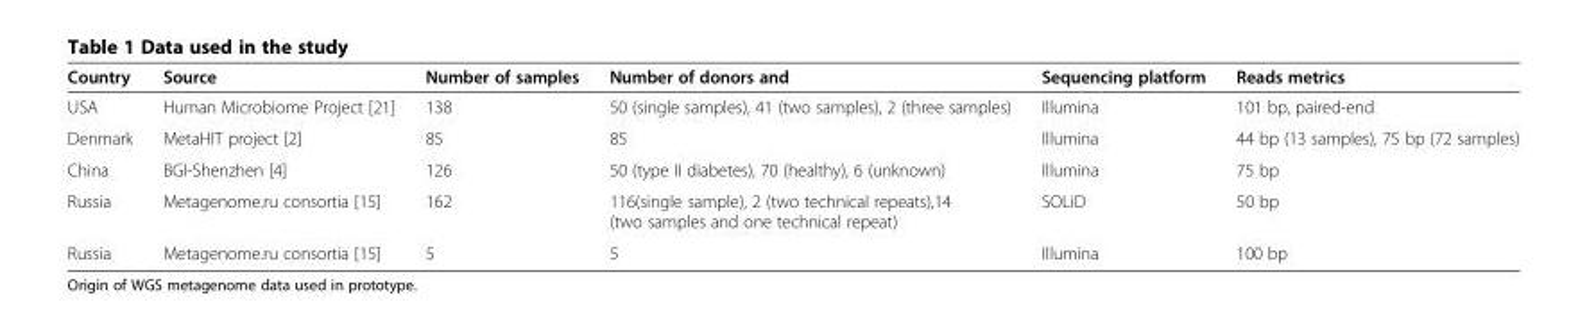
<table><thead><tr><td>Country</td><td>Source</td><td>Number of samples</td><td>Number of donors and</td><td>Sequencing platform</td><td>Reads metrics</td></tr></thead><tbody><tr><td>USA</td><td>Human Microbiome Project [21]</td><td>138</td><td>50 (single samples), 41 (two samples), 2 (three samples)</td><td>Illumina</td><td>101 bp, paired-end</td></tr><tr><td>Denmark</td><td>MetaHIT project [2]</td><td>85</td><td>85</td><td>Illumina</td><td>44 bp (13 samples), 75 bp (72 samples)</td></tr><tr><td>China</td><td>BGI-Shenzhen [4]</td><td>126</td><td>50 (type II diabetes), 70 (healthy), 6 (unknown)</td><td>Illumina</td><td>75 bp</td></tr><tr><td>Russia</td><td>Metagenome.ru consortia [15]</td><td>162</td><td>116(single sample), 2 (two technical repeats),14 (two samples and one technical repeat)</td><td>SOLiD</td><td>50 bp</td></tr><tr><td>Russia</td><td>Metagenome.ru consortia [15]</td><td>5</td><td>5</td><td>Illumina</td><td>100 bp</td></tr></tbody></table>